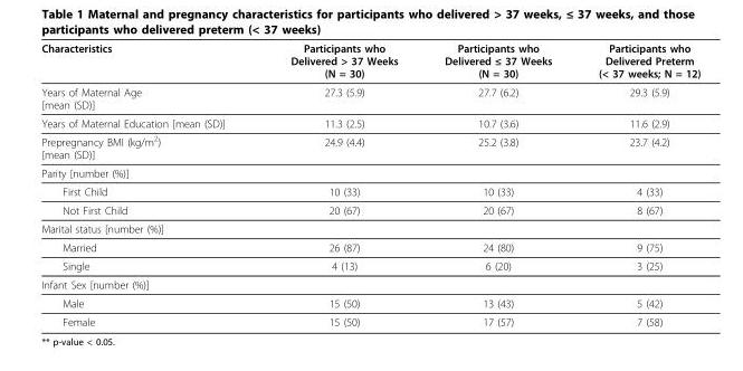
<table><thead><tr><td>Characteristics</td><td>Participants who Delivered &gt; 37 Weeks (N = 30)</td><td>Participants who Delivered ≤ 37 Weeks (N = 30)</td><td>Participants who Delivered Preterm (&lt; 37 weeks; N = 12)</td></tr></thead><tbody><tr><td>Years of Maternal Age [mean (SD)]</td><td>27.3 (5.9)</td><td>27.7 (6.2)</td><td>29.3 (5.9)</td></tr><tr><td>Years of Maternal Education [mean (SD)]</td><td>11.3 (2.5)</td><td>10.7 (3.6)</td><td>11.6 (2.9)</td></tr><tr><td>Prepregnancy BMI (kg/m<sup>2</sup>) [mean (SD)]</td><td>24.9 (4.4)</td><td>25.2 (3.8)</td><td>23.7 (4.2)</td></tr><tr><td colspan="4">Parity [number (%)]</td></tr><tr><td>First Child</td><td>10 (33)</td><td>10 (33)</td><td>4 (33)</td></tr><tr><td>Not First Child</td><td>20 (67)</td><td>20 (67)</td><td>8 (67)</td></tr><tr><td colspan="4">Marital status [number (%)]</td></tr><tr><td>Married</td><td>26 (87)</td><td>24 (80)</td><td>9 (75)</td></tr><tr><td>Single</td><td>4 (13)</td><td>6 (20)</td><td>3 (25)</td></tr><tr><td colspan="4">Infant Sex [number (%)]</td></tr><tr><td>Male</td><td>15 (50)</td><td>13 (43)</td><td>5 (42)</td></tr><tr><td>Female</td><td>15 (50)</td><td>17 (57)</td><td>7 (58)</td></tr></tbody></table>